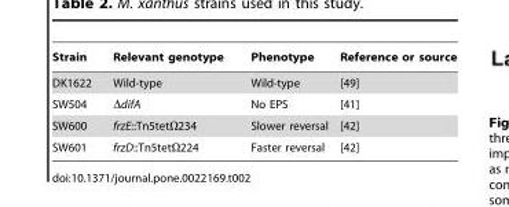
<table><thead><tr><td>Strain</td><td>Relevant genotype</td><td>Phenotype</td><td>Reference or source</td></tr></thead><tbody><tr><td>DK1622</td><td>Wild-type</td><td>Wild-type</td><td>[49]</td></tr><tr><td>SW504</td><td>DdifA</td><td>No EPS</td><td>[41]</td></tr><tr><td>SW600</td><td>frzE::Tn5tetV234</td><td>Slower reversal</td><td>[42]</td></tr><tr><td>SW601</td><td>frzD::Tn5tetV224</td><td>Faster reversal</td><td>[42]</td></tr></tbody></table>